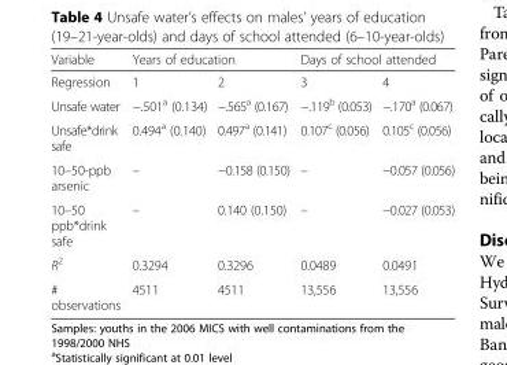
<table><thead><tr><td rowspan="2">Variable Regression</td><td colspan="2">Years of education</td><td colspan="2">Days of school attended</td></tr><tr><td>1</td><td>2</td><td>3</td><td>4</td></tr></thead><tbody><tr><td>Unsafe water</td><td>−.501<sup>a</sup> (0.134)</td><td>−.565<sup>a</sup> (0.167)</td><td>−.119<sup>b</sup> (0.053)</td><td>−.170<sup>a</sup> (0.067)</td></tr><tr><td>Unsafe*drink safe</td><td>0.494<sup>a</sup> (0.140)</td><td>0.497<sup>a</sup> (0.141)</td><td>0.107<sup>c</sup> (0.056)</td><td>0.105<sup>c</sup> (0.056)</td></tr><tr><td>10–50-ppb arsenic</td><td>–</td><td>−0.158 (0.150)</td><td>–</td><td>−0.057 (0.056)</td></tr><tr><td>10–50 ppb*drink safe</td><td>–</td><td>0.140 (0.150)</td><td>–</td><td>−0.027 (0.053)</td></tr><tr><td>R<sup>2</sup></td><td>0.3294</td><td>0.3296</td><td>0.0489</td><td>0.0491</td></tr><tr><td># observations</td><td>4511</td><td>4511</td><td>13,556</td><td>13,556</td></tr></tbody></table>